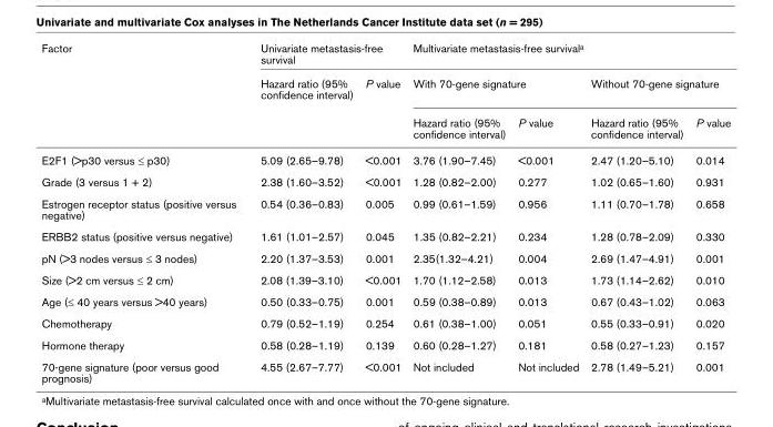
<table><thead><tr><td rowspan="3">Factor</td><td colspan="2">Univariate metastasis-free survival</td><td colspan="4">Multivariate metastasis-free survival<sup>a</sup></td></tr><tr><td rowspan="2">Hazard ratio (95% confidence interval)</td><td rowspan="2">P value</td><td colspan="2">With 70-gene signature</td><td colspan="2">Without 70-gene signature</td></tr><tr><td>Hazard ratio (95% confidence interval)</td><td>P value</td><td>Hazard ratio (95% confidence interval)</td><td>P value</td></tr></thead><tbody><tr><td>E2F1 (&gt;p30 versus ≤ p30)</td><td>5.09 (2.65–9.78)</td><td>&lt;0.001</td><td>3.76 (1.90–7.45)</td><td>&lt;0.001</td><td>2.47 (1.20–5.10)</td><td>0.014</td></tr><tr><td>Grade (3 versus 1 + 2)</td><td>2.38 (1.60–3.52)</td><td>&lt;0.001</td><td>1.28 (0.82–2.00)</td><td>0.277</td><td>1.02 (0.65–1.60)</td><td>0.931</td></tr><tr><td>Estrogen receptor status (positive versus negative)</td><td>0.54 (0.36–0.83)</td><td>0.005</td><td>0.99 (0.61–1.59)</td><td>0.956</td><td>1.11 (0.70–1.78)</td><td>0.658</td></tr><tr><td>ERBB2 status (positive versus negative)</td><td>1.61 (1.01–2.57)</td><td>0.045</td><td>1.35 (0.82–2.21)</td><td>0.234</td><td>1.28 (0.78–2.09)</td><td>0.330</td></tr><tr><td>pN (&gt;3 nodes versus ≤ 3 nodes)</td><td>2.20 (1.37–3.53)</td><td>0.001</td><td>2.35(1.32–4.21)</td><td>0.004</td><td>2.69 (1.47–4.91)</td><td>0.001</td></tr><tr><td>Size (&gt;2 cm versus ≤ 2 cm)</td><td>2.08 (1.39–3.10)</td><td>&lt;0.001</td><td>1.70 (1.12–2.58)</td><td>0.013</td><td>1.73 (1.14–2.62)</td><td>0.010</td></tr><tr><td>Age (≤ 40 years versus &gt;40 years)</td><td>0.50 (0.33–0.75)</td><td>0.001</td><td>0.59 (0.38–0.89)</td><td>0.013</td><td>0.67 (0.43–1.02)</td><td>0.063</td></tr><tr><td>Chemotherapy</td><td>0.79 (0.52–1.19)</td><td>0.254</td><td>0.61 (0.38–1.00)</td><td>0.051</td><td>0.55 (0.33–0.91)</td><td>0.020</td></tr><tr><td>Hormone therapy</td><td>0.58 (0.28–1.19)</td><td>0.139</td><td>0.60 (0.28–1.27)</td><td>0.181</td><td>0.58 (0.27–1.23)</td><td>0.157</td></tr><tr><td>70-gene signature (poor versus good prognosis)</td><td>4.55 (2.67–7.77)</td><td>&lt;0.001</td><td>Not included</td><td>Not included</td><td>2.78 (1.49–5.21)</td><td>0.001</td></tr></tbody></table>